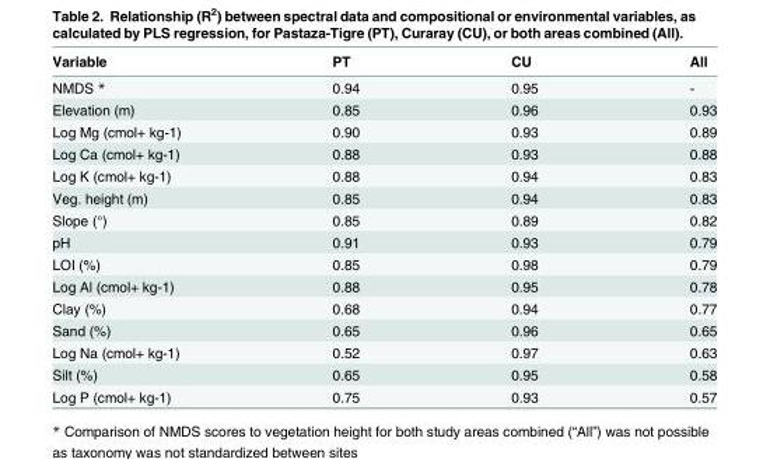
<table><thead><tr><td>Variable</td><td>PT</td><td>CU</td><td>All</td></tr></thead><tbody><tr><td>NMDS *</td><td>0.94</td><td>0.95</td><td>-</td></tr><tr><td>Elevation (m)</td><td>0.85</td><td>0.96</td><td>0.93</td></tr><tr><td>Log Mg (cmol+ kg-1)</td><td>0.90</td><td>0.93</td><td>0.89</td></tr><tr><td>Log Ca (cmol+ kg-1)</td><td>0.88</td><td>0.93</td><td>0.88</td></tr><tr><td>Log K (cmol+ kg-1)</td><td>0.88</td><td>0.94</td><td>0.83</td></tr><tr><td>Veg. height (m)</td><td>0.85</td><td>0.94</td><td>0.83</td></tr><tr><td>Slope (°)</td><td>0.85</td><td>0.89</td><td>0.82</td></tr><tr><td>pH</td><td>0.91</td><td>0.93</td><td>0.79</td></tr><tr><td>LOI (%)</td><td>0.85</td><td>0.98</td><td>0.79</td></tr><tr><td>Log Al (cmol+ kg-1)</td><td>0.88</td><td>0.95</td><td>0.78</td></tr><tr><td>Clay (%)</td><td>0.68</td><td>0.94</td><td>0.77</td></tr><tr><td>Sand (%)</td><td>0.65</td><td>0.96</td><td>0.65</td></tr><tr><td>Log Na (cmol+ kg-1)</td><td>0.52</td><td>0.97</td><td>0.63</td></tr><tr><td>Silt (%)</td><td>0.65</td><td>0.95</td><td>0.58</td></tr><tr><td>Log P (cmol+ kg-1)</td><td>0.75</td><td>0.93</td><td>0.57</td></tr></tbody></table>